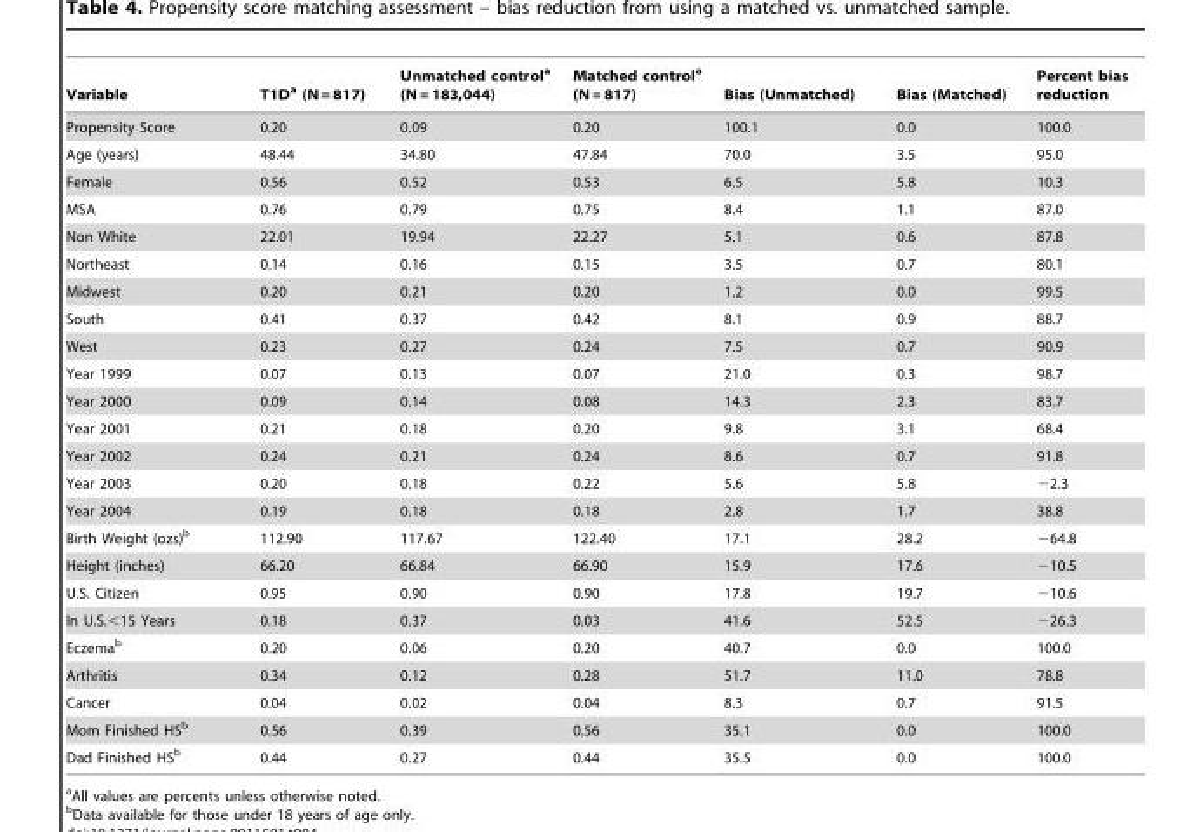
<table><thead><tr><td>Variable</td><td>T1D<sup>a</sup> (N = 817)</td><td>Unmatched control<sup>a</sup> (N = 183,044)</td><td>Matched control<sup>a</sup> (N = 817)</td><td>Bias (Unmatched)</td><td>Bias (Matched)</td><td>Percent bias reduction</td></tr></thead><tbody><tr><td>Propensity Score</td><td>0.20</td><td>0.09</td><td>0.20</td><td>100.1</td><td>0.0</td><td>100.0</td></tr><tr><td>Age (years)</td><td>48.44</td><td>34.80</td><td>47.84</td><td>70.0</td><td>3.5</td><td>95.0</td></tr><tr><td>Female</td><td>0.56</td><td>0.52</td><td>0.53</td><td>6.5</td><td>5.8</td><td>10.3</td></tr><tr><td>MSA</td><td>0.76</td><td>0.79</td><td>0.75</td><td>8.4</td><td>1.1</td><td>87.0</td></tr><tr><td>Non White</td><td>22.01</td><td>19.94</td><td>22.27</td><td>5.1</td><td>0.6</td><td>87.8</td></tr><tr><td>Northeast</td><td>0.14</td><td>0.16</td><td>0.15</td><td>3.5</td><td>0.7</td><td>80.1</td></tr><tr><td>Midwest</td><td>0.20</td><td>0.21</td><td>0.20</td><td>1.2</td><td>0.0</td><td>99.5</td></tr><tr><td>South</td><td>0.41</td><td>0.37</td><td>0.42</td><td>8.1</td><td>0.9</td><td>88.7</td></tr><tr><td>West</td><td>0.23</td><td>0.27</td><td>0.24</td><td>7.5</td><td>0.7</td><td>90.9</td></tr><tr><td>Year 1999</td><td>0.07</td><td>0.13</td><td>0.07</td><td>21.0</td><td>0.3</td><td>98.7</td></tr><tr><td>Year 2000</td><td>0.09</td><td>0.14</td><td>0.08</td><td>14.3</td><td>2.3</td><td>83.7</td></tr><tr><td>Year 2001</td><td>0.21</td><td>0.18</td><td>0.20</td><td>9.8</td><td>3.1</td><td>68.4</td></tr><tr><td>Year 2002</td><td>0.24</td><td>0.21</td><td>0.24</td><td>8.6</td><td>0.7</td><td>91.8</td></tr><tr><td>Year 2003</td><td>0.20</td><td>0.18</td><td>0.22</td><td>5.6</td><td>5.8</td><td>−2.3</td></tr><tr><td>Year 2004</td><td>0.19</td><td>0.18</td><td>0.18</td><td>2.8</td><td>1.7</td><td>38.8</td></tr><tr><td>Birth Weight (ozs)<sup>b</sup></td><td>112.90</td><td>117.67</td><td>122.40</td><td>17.1</td><td>28.2</td><td>−64.8</td></tr><tr><td>Height (inches)</td><td>66.20</td><td>66.84</td><td>66.90</td><td>15.9</td><td>17.6</td><td>−10.5</td></tr><tr><td>U.S. Citizen</td><td>0.95</td><td>0.90</td><td>0.90</td><td>17.8</td><td>19.7</td><td>−10.6</td></tr><tr><td>In U.S.&lt;15 Years</td><td>0.18</td><td>0.37</td><td>0.03</td><td>41.6</td><td>52.5</td><td>−26.3</td></tr><tr><td>Eczema<sup>b</sup></td><td>0.20</td><td>0.06</td><td>0.20</td><td>40.7</td><td>0.0</td><td>100.0</td></tr><tr><td>Arthritis</td><td>0.34</td><td>0.12</td><td>0.28</td><td>51.7</td><td>11.0</td><td>78.8</td></tr><tr><td>Cancer</td><td>0.04</td><td>0.02</td><td>0.04</td><td>8.3</td><td>0.7</td><td>91.5</td></tr><tr><td>Mom Finished HS<sup>b</sup></td><td>0.56</td><td>0.39</td><td>0.56</td><td>35.1</td><td>0.0</td><td>100.0</td></tr><tr><td>Dad Finished HS<sup>b</sup></td><td>0.44</td><td>0.27</td><td>0.44</td><td>35.5</td><td>0.0</td><td>100.0</td></tr></tbody></table>